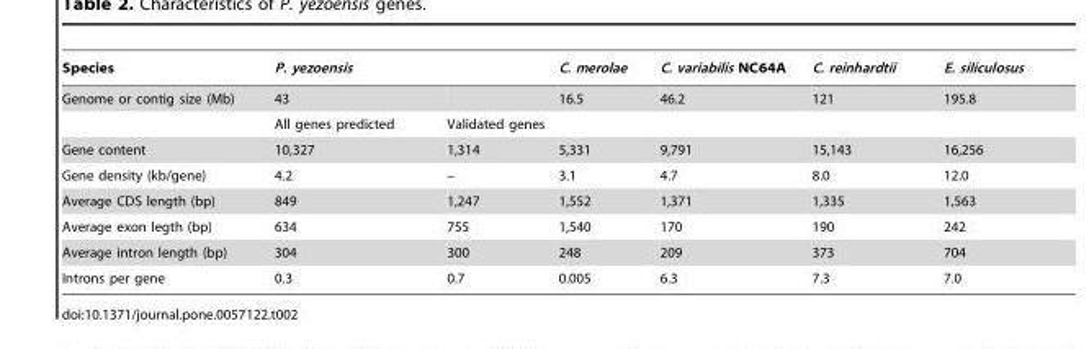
<table><thead><tr><td>Species</td><td>P. yezoensis</td><td></td><td>C. merolae</td><td>C. variabilis NC64A</td><td>C. reinhardtii</td><td>E. siliculosus</td></tr></thead><tbody><tr><td rowspan="2">Genome or contig size (Mb)</td><td>43</td><td></td><td>16.5</td><td>46.2</td><td>121</td><td>195.8</td></tr><tr><td>All genes predicted</td><td>Validated genes</td><td></td><td></td><td></td><td></td></tr><tr><td>Gene content</td><td>10,327</td><td>1,314</td><td>5,331</td><td>9,791</td><td>15,143</td><td>16,256</td></tr><tr><td>Gene density (kb/gene)</td><td>4.2</td><td>–</td><td>3.1</td><td>4.7</td><td>8.0</td><td>12.0</td></tr><tr><td>Average CDS length (bp)</td><td>849</td><td>1,247</td><td>1,552</td><td>1,371</td><td>1,335</td><td>1,563</td></tr><tr><td>Average exon legth (bp)</td><td>634</td><td>755</td><td>1,540</td><td>170</td><td>190</td><td>242</td></tr><tr><td>Average intron length (bp)</td><td>304</td><td>300</td><td>248</td><td>209</td><td>373</td><td>704</td></tr><tr><td>Introns per gene</td><td>0.3</td><td>0.7</td><td>0.005</td><td>6.3</td><td>7.3</td><td>7.0</td></tr></tbody></table>